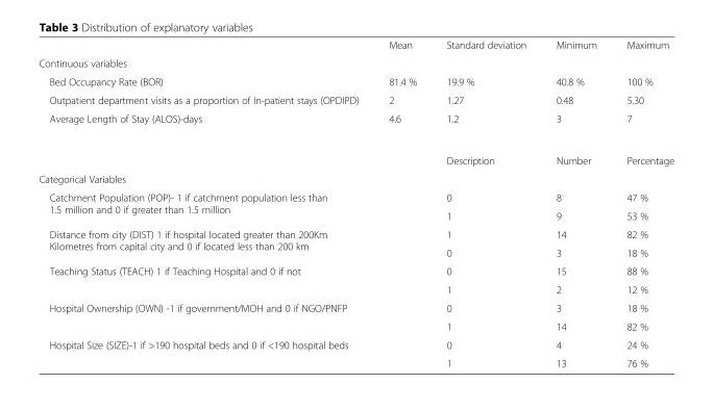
<table><thead><tr><td></td><td>Mean</td><td>Standard deviation</td><td>Minimum</td><td>Maximum</td></tr></thead><tbody><tr><td colspan="5">Continuous variables</td></tr><tr><td>Bed Occupancy Rate (BOR)</td><td>81.4 %</td><td>19.9 %</td><td>40.8 %</td><td>100 %</td></tr><tr><td>Outpatient department visits as a proportion of In-patient stays (OPDIPD)</td><td>2</td><td>1.27</td><td>0.48</td><td>5.30</td></tr><tr><td rowspan="2">Average Length of Stay (ALOS)-days</td><td>4.6</td><td>1.2</td><td>3</td><td>7</td></tr><tr><td></td><td>Description</td><td>Number</td><td>Percentage</td></tr><tr><td colspan="5">Categorical Variables</td></tr><tr><td rowspan="2" colspan="2">Catchment Population (POP)- 1 if catchment population less than 1.5 million and 0 if greater than 1.5 million</td><td>0</td><td>8</td><td>47 %</td></tr><tr><td>1</td><td>9</td><td>53 %</td></tr><tr><td rowspan="2" colspan="2">Distance from city (DIST) 1 if hospital located greater than 200Km Kilometres from capital city and 0 if located less than 200 km</td><td>1</td><td>14</td><td>82 %</td></tr><tr><td>0</td><td>3</td><td>18 %</td></tr><tr><td rowspan="2" colspan="2">Teaching Status (TEACH) 1 if Teaching Hospital and 0 if not</td><td>0</td><td>15</td><td>88 %</td></tr><tr><td>1</td><td>2</td><td>12 %</td></tr><tr><td rowspan="2" colspan="2">Hospital Ownership (OWN) -1 if government/MOH and 0 if NGO/PNFP</td><td>0</td><td>3</td><td>18 %</td></tr><tr><td>1</td><td>14</td><td>82 %</td></tr><tr><td rowspan="2" colspan="2">Hospital Size (SIZE)-1 if &gt;190 hospital beds and 0 if &lt;190 hospital beds</td><td>0</td><td>4</td><td>24 %</td></tr><tr><td>1</td><td>13</td><td>76 %</td></tr></tbody></table>